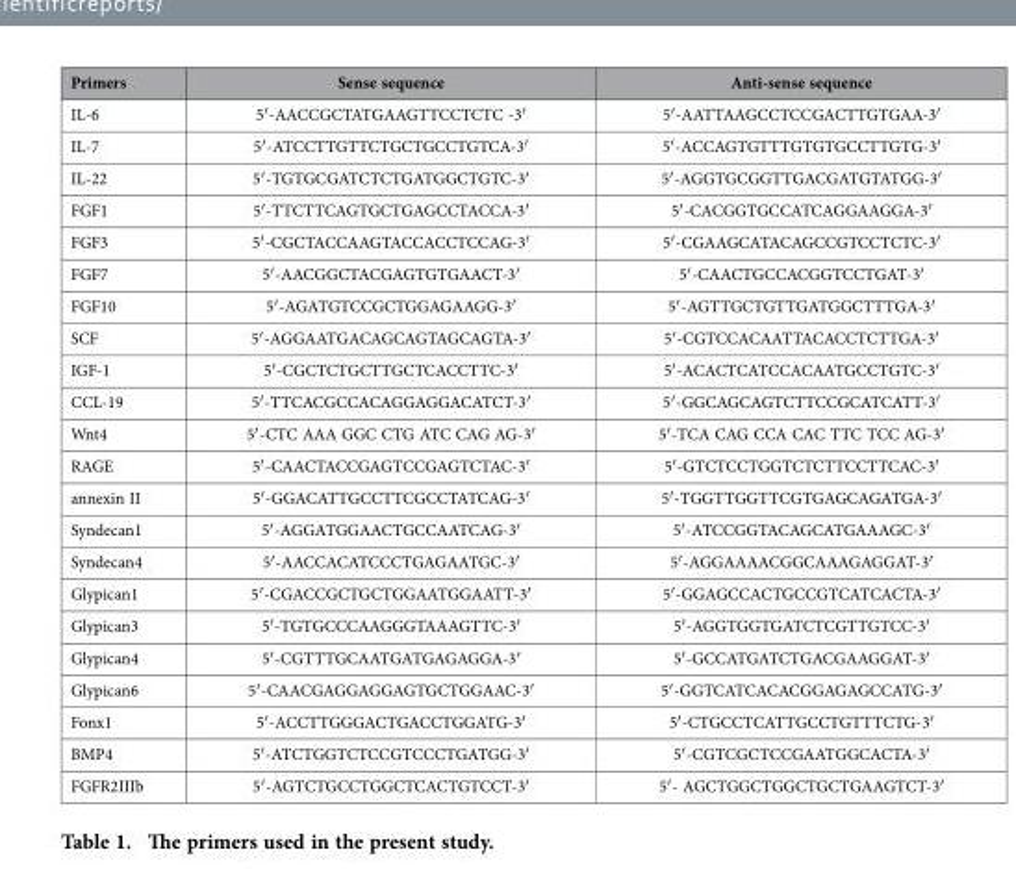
<table><thead><tr><td>Primers</td><td>Sense sequence</td><td>Anti-sense sequence</td></tr></thead><tbody><tr><td>IL-6</td><td>5′ -AACCGCTATGAAGTTCCTCTC -3′</td><td>5′ -AATTAAGCCTCCGACTTGTGAA-3′</td></tr><tr><td>IL-7</td><td>5′ -ATCCTTGTTCTGCTGCCTGTCA-3′</td><td>5′ -ACCAGTGTTTGTGTGCCTTGTG-3′</td></tr><tr><td>IL-22</td><td>5′ -TGTGCGATCTCTGATGGCTGTC-3′</td><td>5′ -AGGTGCGGTTGACGATGTATGG-3′</td></tr><tr><td>FGF1</td><td>5′ -TTCTTCAGTGCTGAGCCTACCA-3′</td><td>5′ -CACGGTGCCATCAGGAAGGA-3′</td></tr><tr><td>FGF3</td><td>5′ -CGCTACCAAGTACCACCTCCAG-3′</td><td>5′ -CGAAGCATACAGCCGTCCTCTC-3′</td></tr><tr><td>FGF7</td><td>5′ -AACGGCTACGAGTGTGAACT-3′</td><td>5′ -CAACTGCCACGGTCCTGAT-3′</td></tr><tr><td>FGF10</td><td>5′ -AGATGTCCGCTGGAGAAGG-3′</td><td>5′ -AGTTGCTGTTGATGGCTTTGA-3′</td></tr><tr><td>SCF</td><td>5′ -AGGAATGACAGCAGTAGCAGTA-3′</td><td>5′ -CGTCCACAATTACACCTCTTGA-3′</td></tr><tr><td>IGF-1</td><td>5′ -CGCTCTGCTTGCTCACCTTC-3′</td><td>5′ -ACACTCATCCACAATGCCTGTC-3′</td></tr><tr><td>CCL-19</td><td>5′ -TTCACGCCACAGGAGGACATCT-3′</td><td>5′ -GGCAGCAGTCTTCCGCATCATT-3′</td></tr><tr><td>Wnt4</td><td>5′ -CTC AAA GGC CTG ATC CAG AG-3′</td><td>5′ -TCA CAG CCA CAC TTC TCC AG-3′</td></tr><tr><td>RAGE</td><td>5′ -CAACTACCGAGTCCGAGTCTAC-3′</td><td>5′ -GTCTCCTGGTCTCTTCCTTCAC-3′</td></tr><tr><td>annexin II</td><td>5′ -GGACATTGCCTTCGCCTATCAG-3′</td><td>5′ -TGGTTGGTTCGTGAGCAGATGA-3′</td></tr><tr><td>Syndecan1</td><td>5′ -AGGATGGAACTGCCAATCAG-3′</td><td>5′ -ATCCGGTACAGCATGAAAGC-3′</td></tr><tr><td>Syndecan4</td><td>5′ -AACCACATCCCTGAGAATGC-3′</td><td>5′ -AGGAAAACGGCAAAGAGGAT-3′</td></tr><tr><td>Glypican1</td><td>5′ -CGACCGCTGCTGGAATGGAATT-3′</td><td>5′ -GGAGCCACTGCCGTCATCACTA-3′</td></tr><tr><td>Glypican3</td><td>5′ -TGTGCCCAAGGGTAAAGTTC-3′</td><td>5′ -AGGTGGTGATCTCGTTGTCC-3′</td></tr><tr><td>Glypican4</td><td>5′ -CGTTTGCAATGATGAGAGGA-3′</td><td>5′ -GCCATGATCTGACGAAGGAT-3′</td></tr><tr><td>Glypican6</td><td>5′ -CAACGAGGAGGAGTGCTGGAAC-3′</td><td>5′ -GGTCATCACACGGAGAGCCATG-3′</td></tr><tr><td>Fonx1</td><td>5′ -ACCTTGGGACTGACCTGGATG-3′</td><td>5′ -CTGCCTCATTGCCTGTTTCTG-3′</td></tr><tr><td>BMP4</td><td>5′ -ATCTGGTCTCCGTCCCTGATGG-3′</td><td>5′ -CGTCGCTCCGAATGGCACTA-3′</td></tr><tr><td>FGFR2IIIb</td><td>5′ -AGTCTGCCTGGCTCACTGTCCT-3′</td><td>5′ - AGCTGGCTGGCTGCTGAAGTCT-3′</td></tr></tbody></table>